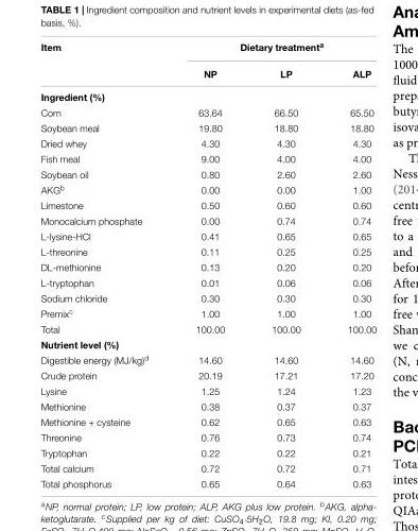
<table><thead><tr><td rowspan="2">Item</td><td colspan="3">Dietary treatment<sup>a</sup></td></tr><tr><td>NP</td><td>LP</td><td>ALP</td></tr></thead><tbody><tr><td colspan="4">Ingredient (%)</td></tr><tr><td>Corn</td><td>63.64</td><td>66.50</td><td>65.50</td></tr><tr><td>Soybean meal</td><td>19.80</td><td>18.80</td><td>18.80</td></tr><tr><td>Dried whey</td><td>4.30</td><td>4.30</td><td>4.30</td></tr><tr><td>Fish meal</td><td>9.00</td><td>4.00</td><td>4.00</td></tr><tr><td>Soybean oil</td><td>0.80</td><td>2.60</td><td>2.60</td></tr><tr><td>AKG<sup>b</sup></td><td>0.00</td><td>0.00</td><td>1.00</td></tr><tr><td>Limestone</td><td>0.50</td><td>0.60</td><td>0.60</td></tr><tr><td>Monocalcium phosphate</td><td>0.00</td><td>0.74</td><td>0.74</td></tr><tr><td>L-lysine-HCl</td><td>0.41</td><td>0.65</td><td>0.65</td></tr><tr><td>L-threonine</td><td>0.11</td><td>0.25</td><td>0.25</td></tr><tr><td>DL-methionine</td><td>0.13</td><td>0.20</td><td>0.20</td></tr><tr><td>L-tryptophan</td><td>0.01</td><td>0.06</td><td>0.06</td></tr><tr><td>Sodium chloride</td><td>0.30</td><td>0.30</td><td>0.30</td></tr><tr><td>Premix<sup>c</sup></td><td>1.00</td><td>1.00</td><td>1.00</td></tr><tr><td>Total</td><td>100.00</td><td>100.00</td><td>100.00</td></tr><tr><td colspan="4">Nutrient level (%)</td></tr><tr><td>Digestible energy (MJ/kg)<sup>d</sup></td><td>14.60</td><td>14.60</td><td>14.60</td></tr><tr><td>Crude protein</td><td>20.19</td><td>17.21</td><td>17.20</td></tr><tr><td>Lysine</td><td>1.25</td><td>1.24</td><td>1.23</td></tr><tr><td>Methionine</td><td>0.38</td><td>0.37</td><td>0.37</td></tr><tr><td>Methionine + cysteine</td><td>0.62</td><td>0.65</td><td>0.63</td></tr><tr><td>Threonine</td><td>0.76</td><td>0.73</td><td>0.74</td></tr><tr><td>Tryptophan</td><td>0.22</td><td>0.22</td><td>0.21</td></tr><tr><td>Total calcium</td><td>0.72</td><td>0.72</td><td>0.71</td></tr><tr><td>Total phosphorus</td><td>0.65</td><td>0.64</td><td>0.63</td></tr></tbody></table>